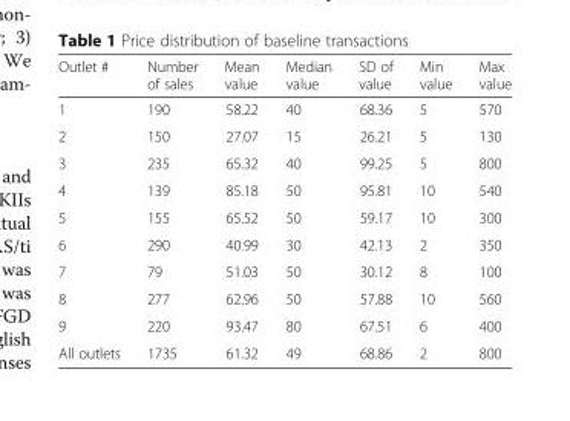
<table><thead><tr><td>Outlet #</td><td>Number of sales</td><td>Mean value</td><td>Median value</td><td>SD of value</td><td>Min value</td><td>Max value</td></tr></thead><tbody><tr><td>1</td><td>190</td><td>58.22</td><td>40</td><td>68.36</td><td>5</td><td>570</td></tr><tr><td>2</td><td>150</td><td>27.07</td><td>15</td><td>26.21</td><td>5</td><td>130</td></tr><tr><td>3</td><td>235</td><td>65.32</td><td>40</td><td>99.25</td><td>5</td><td>800</td></tr><tr><td>4</td><td>139</td><td>85.18</td><td>50</td><td>95.81</td><td>10</td><td>540</td></tr><tr><td>5</td><td>155</td><td>65.52</td><td>50</td><td>59.17</td><td>10</td><td>300</td></tr><tr><td>6</td><td>290</td><td>40.99</td><td>30</td><td>42.13</td><td>2</td><td>350</td></tr><tr><td>7</td><td>79</td><td>51.03</td><td>50</td><td>30.12</td><td>8</td><td>100</td></tr><tr><td>8</td><td>277</td><td>62.96</td><td>50</td><td>57.88</td><td>10</td><td>560</td></tr><tr><td>9</td><td>220</td><td>93.47</td><td>80</td><td>67.51</td><td>6</td><td>400</td></tr><tr><td>All outlets</td><td>1735</td><td>61.32</td><td>49</td><td>68.86</td><td>2</td><td>800</td></tr></tbody></table>